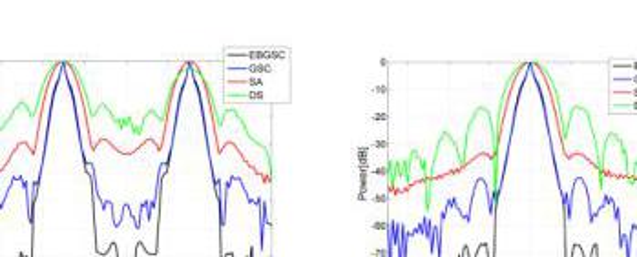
<table><thead><tr><td>Algorithm</td><td>FWHM (mm)</td><td>PSL (dB)</td></tr></thead><tbody><tr><td>DS</td><td>2.05</td><td>−15.82</td></tr><tr><td>SA</td><td>1.50</td><td>−33.08</td></tr><tr><td>GSC</td><td>0.97</td><td>−42.65</td></tr><tr><td>EBGSC</td><td>0.97</td><td>−66.20</td></tr></tbody></table>